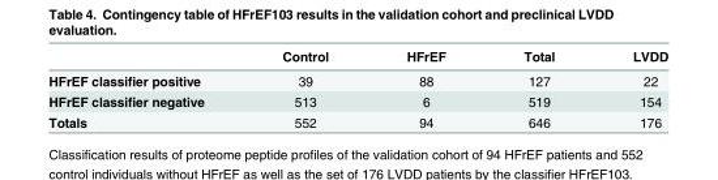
<table><thead><tr><td></td><td>Control</td><td>HFrEF</td><td>Total</td><td>LVDD</td></tr></thead><tbody><tr><td>HFrEF classifier positive</td><td>39</td><td>88</td><td>127</td><td>22</td></tr><tr><td>HFrEF classifier negative</td><td>513</td><td>6</td><td>519</td><td>154</td></tr><tr><td>Totals</td><td>552</td><td>94</td><td>646</td><td>176</td></tr></tbody></table>